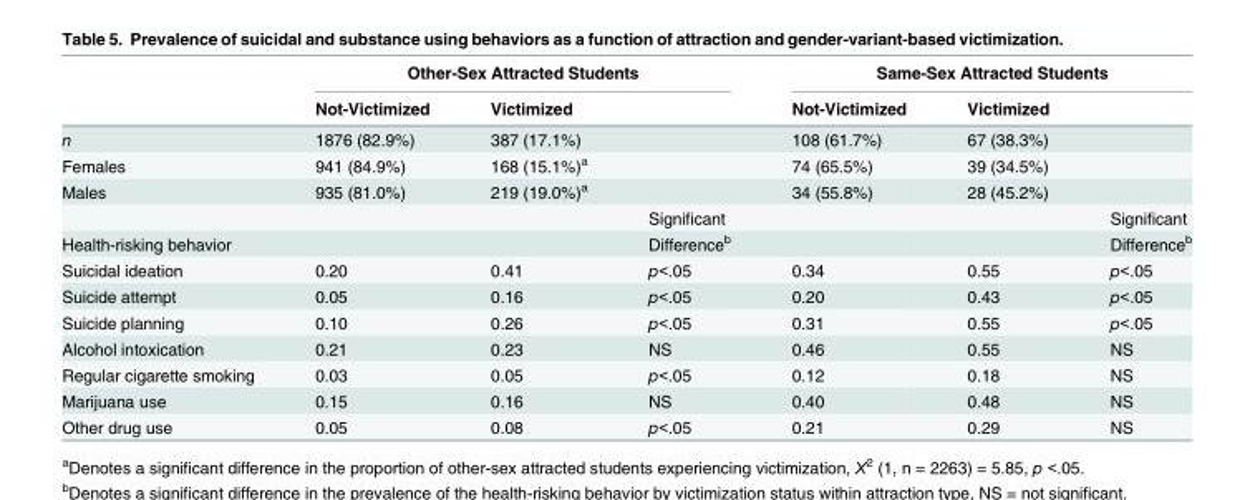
<table><thead><tr><td rowspan="2"></td><td colspan="3">Other-Sex Attracted Students</td><td colspan="3">Same-Sex Attracted Students</td></tr><tr><td>Not-Victimized</td><td>Victimized</td><td></td><td>Not-Victimized</td><td>Victimized</td><td></td></tr></thead><tbody><tr><td>n</td><td>1876 (82.9%)</td><td>387 (17.1%)</td><td></td><td>108 (61.7%)</td><td>67 (38.3%)</td><td></td></tr><tr><td>Females</td><td>941 (84.9%)</td><td>168 (15.1%)<sup>a</sup></td><td></td><td>74 (65.5%)</td><td>39 (34.5%)</td><td></td></tr><tr><td rowspan="2">Males</td><td>935 (81.0%)</td><td>219 (19.0%)<sup>a</sup></td><td></td><td>34 (55.8%)</td><td>28 (45.2%)</td><td></td></tr><tr><td></td><td></td><td>Significant</td><td></td><td></td><td>Significant</td></tr><tr><td>Health-risking behavior</td><td></td><td></td><td>Difference<sup>b</sup></td><td></td><td></td><td>Difference<sup>b</sup></td></tr><tr><td>Suicidal ideation</td><td>0.20</td><td>0.41</td><td>p&lt;.05</td><td>0.34</td><td>0.55</td><td>p&lt;.05</td></tr><tr><td>Suicide attempt</td><td>0.05</td><td>0.16</td><td>p&lt;.05</td><td>0.20</td><td>0.43</td><td>p&lt;.05</td></tr><tr><td>Suicide planning</td><td>0.10</td><td>0.26</td><td>p&lt;.05</td><td>0.31</td><td>0.55</td><td>p&lt;.05</td></tr><tr><td>Alcohol intoxication</td><td>0.21</td><td>0.23</td><td>NS</td><td>0.46</td><td>0.55</td><td>NS</td></tr><tr><td>Regular cigarette smoking</td><td>0.03</td><td>0.05</td><td>p&lt;.05</td><td>0.12</td><td>0.18</td><td>NS</td></tr><tr><td>Marijuana use</td><td>0.15</td><td>0.16</td><td>NS</td><td>0.40</td><td>0.48</td><td>NS</td></tr><tr><td>Other drug use</td><td>0.05</td><td>0.08</td><td>p&lt;.05</td><td>0.21</td><td>0.29</td><td>NS</td></tr></tbody></table>